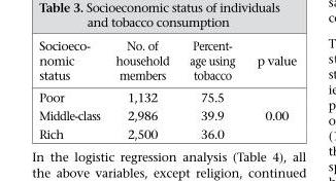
<table><thead><tr><td>Socioeco- nomic status</td><td>No. of household members</td><td>Percent- age using tobacco</td><td>p value</td></tr></thead><tbody><tr><td>Poor</td><td>1,132</td><td>75.5</td><td rowspan="3">0.00</td></tr><tr><td>Middle-class</td><td>2,986</td><td>39.9</td></tr><tr><td>Rich</td><td>2,500</td><td>36.0</td></tr></tbody></table>